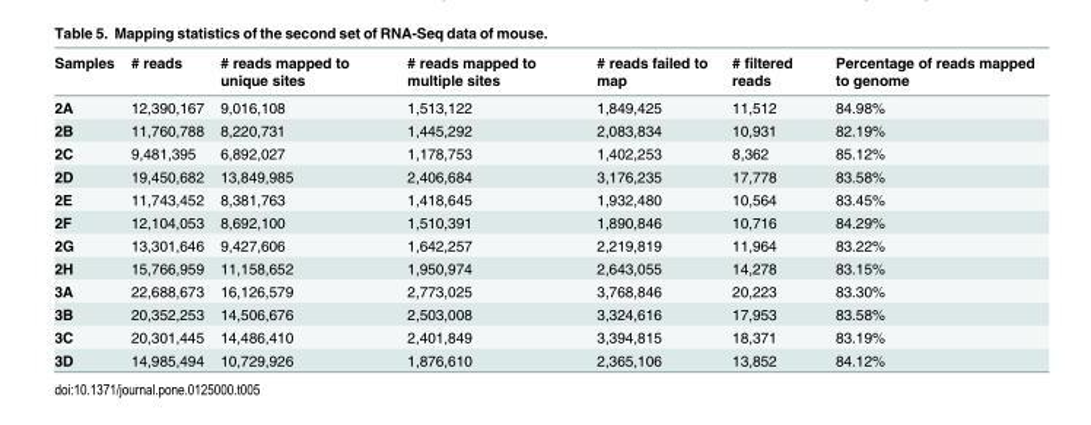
<table><thead><tr><td>Samples</td><td># reads</td><td># reads mapped to unique sites</td><td># reads mapped to multiple sites</td><td># reads failed to map</td><td># filtered reads</td><td>Percentage of reads mapped to genome</td></tr></thead><tbody><tr><td>2A</td><td>12,390,167</td><td>9,016,108</td><td>1,513,122</td><td>1,849,425</td><td>11,512</td><td>84.98%</td></tr><tr><td>2B</td><td>11,760,788</td><td>8,220,731</td><td>1,445,292</td><td>2,083,834</td><td>10,931</td><td>82.19%</td></tr><tr><td>2C</td><td>9,481,395</td><td>6,892,027</td><td>1,178,753</td><td>1,402,253</td><td>8,362</td><td>85.12%</td></tr><tr><td>2D</td><td>19,450,682</td><td>13,849,985</td><td>2,406,684</td><td>3,176,235</td><td>17,778</td><td>83.58%</td></tr><tr><td>2E</td><td>11,743,452</td><td>8,381,763</td><td>1,418,645</td><td>1,932,480</td><td>10,564</td><td>83.45%</td></tr><tr><td>2F</td><td>12,104,053</td><td>8,692,100</td><td>1,510,391</td><td>1,890,846</td><td>10,716</td><td>84.29%</td></tr><tr><td>2G</td><td>13,301,646</td><td>9,427,606</td><td>1,642,257</td><td>2,219,819</td><td>11,964</td><td>83.22%</td></tr><tr><td>2H</td><td>15,766,959</td><td>11,158,652</td><td>1,950,974</td><td>2,643,055</td><td>14,278</td><td>83.15%</td></tr><tr><td>3A</td><td>22,688,673</td><td>16,126,579</td><td>2,773,025</td><td>3,768,846</td><td>20,223</td><td>83.30%</td></tr><tr><td>3B</td><td>20,352,253</td><td>14,506,676</td><td>2,503,008</td><td>3,324,616</td><td>17,953</td><td>83.58%</td></tr><tr><td>3C</td><td>20,301,445</td><td>14,486,410</td><td>2,401,849</td><td>3,394,815</td><td>18,371</td><td>83.19%</td></tr><tr><td>3D</td><td>14,985,494</td><td>10,729,926</td><td>1,876,610</td><td>2,365,106</td><td>13,852</td><td>84.12%</td></tr></tbody></table>